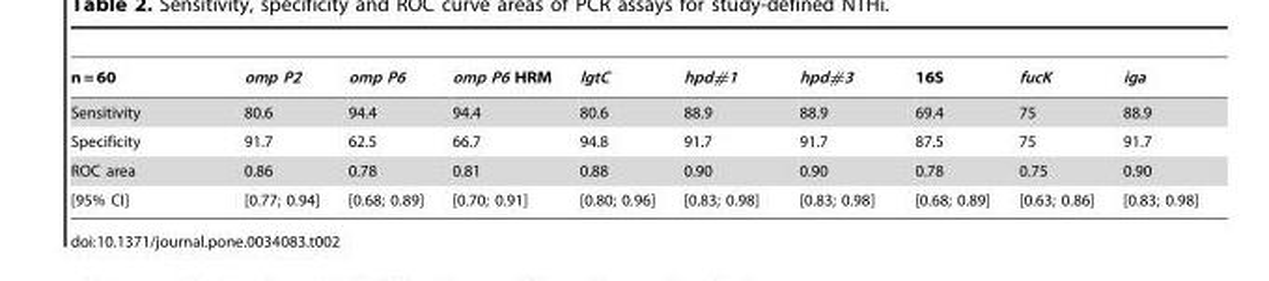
<table><thead><tr><td>n = 60</td><td>omp P2</td><td>omp P6</td><td>omp P6 HRM</td><td>lgtC</td><td>hpd#1</td><td>hpd#3</td><td>16S</td><td>fucK</td><td>iga</td></tr></thead><tbody><tr><td>Sensitivity</td><td>80.6</td><td>94.4</td><td>94.4</td><td>80.6</td><td>88.9</td><td>88.9</td><td>69.4</td><td>75</td><td>88.9</td></tr><tr><td>Specificity</td><td>91.7</td><td>62.5</td><td>66.7</td><td>94.8</td><td>91.7</td><td>91.7</td><td>87.5</td><td>75</td><td>91.7</td></tr><tr><td>ROC area</td><td>0.86</td><td>0.78</td><td>0.81</td><td>0.88</td><td>0.90</td><td>0.90</td><td>0.78</td><td>0.75</td><td>0.90</td></tr><tr><td>[95% CI]</td><td>[0.77; 0.94]</td><td>[0.68; 0.89]</td><td>[0.70; 0.91]</td><td>[0.80; 0.96]</td><td>[0.83; 0.98]</td><td>[0.83; 0.98]</td><td>[0.68; 0.89]</td><td>[0.63; 0.86]</td><td>[0.83; 0.98]</td></tr></tbody></table>